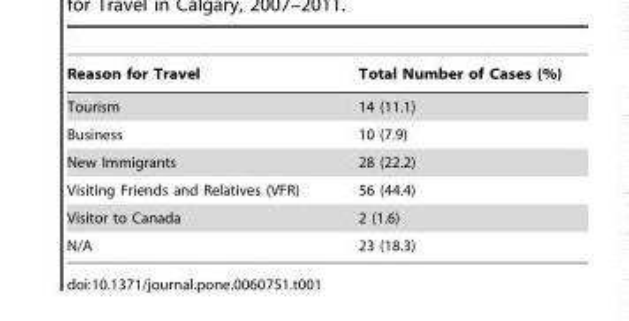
<table><thead><tr><td>Reason for Travel</td><td>Total Number of Cases (%)</td></tr></thead><tbody><tr><td>Tourism</td><td>14 (11.1)</td></tr><tr><td>Business</td><td>10 (7.9)</td></tr><tr><td>New Immigrants</td><td>28 (22.2)</td></tr><tr><td>Visiting Friends and Relatives (VFR)</td><td>56 (44.4)</td></tr><tr><td>Visitor to Canada</td><td>2 (1.6)</td></tr><tr><td>N/A</td><td>23 (18.3)</td></tr></tbody></table>